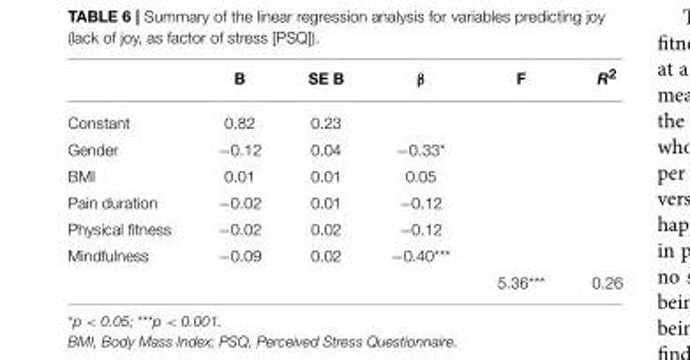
<table><thead><tr><td></td><td>B</td><td>SE B</td><td>β</td><td>F</td><td>R<sup>2</sup></td></tr></thead><tbody><tr><td>Constant</td><td>0.82</td><td>0.23</td><td></td><td></td><td></td></tr><tr><td>Gender</td><td>−0.12</td><td>0.04</td><td>−0.33*</td><td></td><td></td></tr><tr><td>BMI</td><td>0.01</td><td>0.01</td><td>0.05</td><td></td><td></td></tr><tr><td>Pain duration</td><td>−0.02</td><td>0.01</td><td>−0.12</td><td></td><td></td></tr><tr><td>Physical fitness</td><td>−0.02</td><td>0.02</td><td>−0.12</td><td></td><td></td></tr><tr><td rowspan="2">Mindfulness</td><td>−0.09</td><td>0.02</td><td>−0.40***</td><td></td><td></td></tr><tr><td></td><td></td><td></td><td>5.36***</td><td>0.26</td></tr></tbody></table>